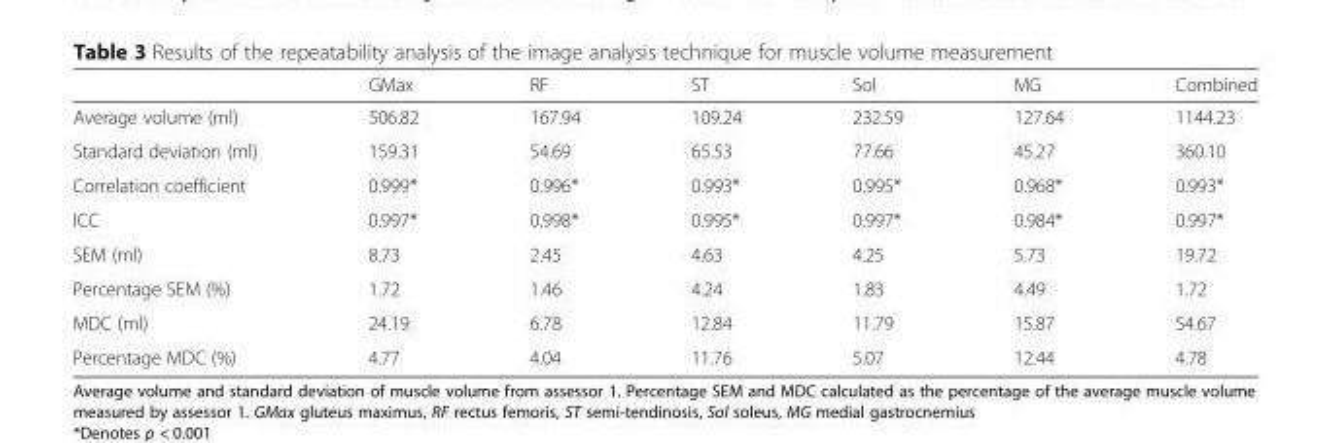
<table><thead><tr><td></td><td>GMax</td><td>RF</td><td>ST</td><td>Sol</td><td>MG</td><td>Combined</td></tr></thead><tbody><tr><td>Average volume (ml)</td><td>506.82</td><td>167.94</td><td>109.24</td><td>232.59</td><td>127.64</td><td>1144.23</td></tr><tr><td>Standard deviation (ml)</td><td>159.31</td><td>54.69</td><td>65.53</td><td>77.66</td><td>45.27</td><td>360.10</td></tr><tr><td>Correlation coefficient</td><td>0.999*</td><td>0.996*</td><td>0.993*</td><td>0.995*</td><td>0.968*</td><td>0.993*</td></tr><tr><td>ICC</td><td>0.997*</td><td>0.998*</td><td>0.995*</td><td>0.997*</td><td>0.984*</td><td>0.997*</td></tr><tr><td>SEM (ml)</td><td>8.73</td><td>2.45</td><td>4.63</td><td>4.25</td><td>5.73</td><td>19.72</td></tr><tr><td>Percentage SEM (%)</td><td>1.72</td><td>1.46</td><td>4.24</td><td>1.83</td><td>4.49</td><td>1.72</td></tr><tr><td>MDC (ml)</td><td>24.19</td><td>6.78</td><td>12.84</td><td>11.79</td><td>15.87</td><td>54.67</td></tr><tr><td>Percentage MDC (%)</td><td>4.77</td><td>4.04</td><td>11.76</td><td>5.07</td><td>12.44</td><td>4.78</td></tr></tbody></table>